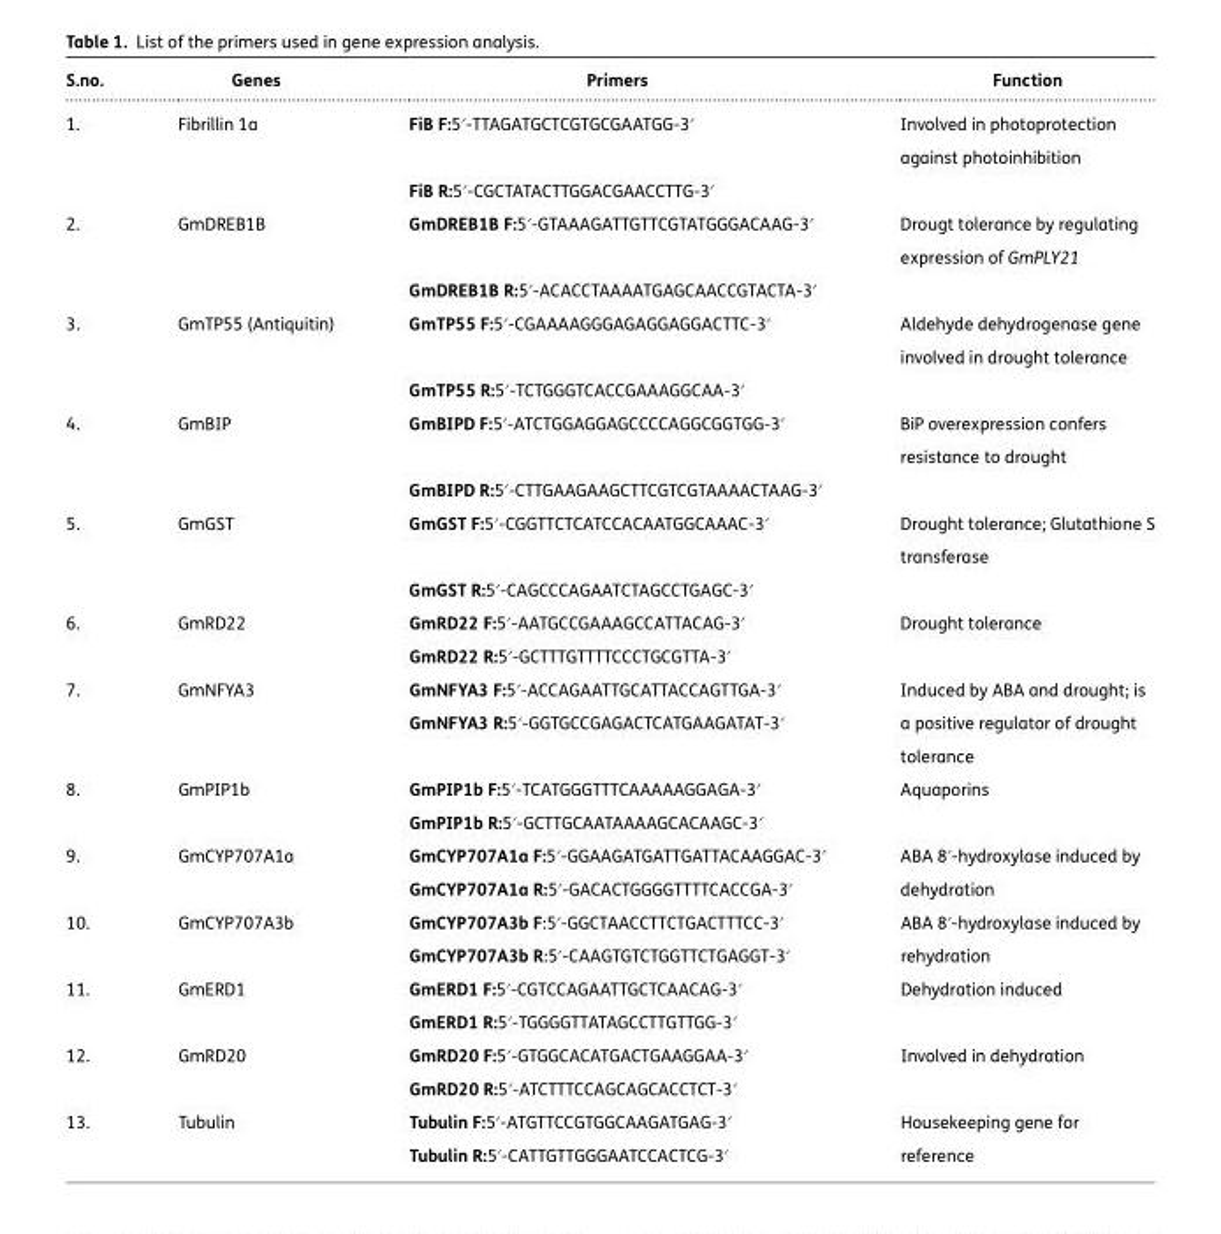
<table><thead><tr><td>S.no.</td><td>Genes</td><td>Primers</td><td>Function</td></tr></thead><tbody><tr><td rowspan="2">1.</td><td>Fibrillin 1a</td><td>FiB F:5′-TTAGATGCTCGTGCGAATGG-3′</td><td>Involved in photoprotection against photoinhibition</td></tr><tr><td></td><td>FiB R:5′-CGCTATACTTGGACGAACCTTG-3′</td><td></td></tr><tr><td rowspan="2">2.</td><td>GmDREB1B</td><td>GmDREB1B F:5′-GTAAAGATTGTTCGTATGGGACAAG-3′</td><td>Drougt tolerance by regulating expression of GmPLY21</td></tr><tr><td></td><td>GmDREB1B R:5′-ACACCTAAAATGAGCAACCGTACTA-3′</td><td></td></tr><tr><td rowspan="2">3.</td><td>GmTP55 (Antiquitin)</td><td>GmTP55 F:5′-CGAAAAGGGAGAGGAGGACTTC-3′</td><td>Aldehyde dehydrogenase gene involved in drought tolerance</td></tr><tr><td></td><td>GmTP55 R:5′-TCTGGGTCACCGAAAGGCAA-3′</td><td></td></tr><tr><td rowspan="2">4.</td><td>GmBIP</td><td>GmBIPD F:5′-ATCTGGAGGAGCCCCAGGCGGTGG-3′</td><td>BiP overexpression confers resistance to drought</td></tr><tr><td></td><td>GmBIPD R:5′-CTTGAAGAAGCTTCGTCGTAAAACTAAG-3′</td><td></td></tr><tr><td rowspan="2">5.</td><td>GmGST</td><td>GmGST F:5′-CGGTTCTCATCCACAATGGCAAAC-3′</td><td>Drought tolerance; Glutathione S transferase</td></tr><tr><td></td><td>GmGST R:5′-CAGCCCAGAATCTAGCCTGAGC-3′</td><td></td></tr><tr><td rowspan="2">6.</td><td>GmRD22</td><td>GmRD22 F:5′-AATGCCGAAAGCCATTACAG-3′</td><td>Drought tolerance</td></tr><tr><td></td><td>GmRD22 R:5′-GCTTTGTTTTCCCTGCGTTA-3′</td><td></td></tr><tr><td rowspan="2">7.</td><td rowspan="2">GmNFYA3</td><td>GmNFYA3 F:5′-ACCAGAATTGCATTACCAGTTGA-3′</td><td rowspan="2">Induced by ABA and drought; is a positive regulator of drought tolerance</td></tr><tr><td>GmNFYA3 R:5′-GGTGCCGAGACTCATGAAGATAT-3′</td></tr><tr><td rowspan="2">8.</td><td rowspan="2">GmPIP1b</td><td>GmPIP1b F:5′-TCATGGGTTTCAAAAAGGAGA-3′</td><td rowspan="2">Aquaporins</td></tr><tr><td>GmPIP1b R:5′-GCTTGCAATAAAAGCACAAGC-3′</td></tr><tr><td rowspan="2">9.</td><td rowspan="2">GmCYP707A1a</td><td>GmCYP707A1a F:5′-GGAAGATGATTGATTACAAGGAC-3′</td><td rowspan="2">ABA 8′-hydroxylase induced by dehydration</td></tr><tr><td>GmCYP707A1a R:5′-GACACTGGGGTTTTCACCGA-3′</td></tr><tr><td rowspan="2">10.</td><td rowspan="2">GmCYP707A3b</td><td>GmCYP707A3b F:5′-GGCTAACCTTCTGACTTTCC-3′</td><td rowspan="2">ABA 8′-hydroxylase induced by rehydration</td></tr><tr><td>GmCYP707A3b R:5′-CAAGTGTCTGGTTCTGAGGT-3′</td></tr><tr><td rowspan="2">11.</td><td rowspan="2">GmERD1</td><td>GmERD1 F:5′-CGTCCAGAATTGCTCAACAG-3′</td><td rowspan="2">Dehydration induced</td></tr><tr><td>GmERD1 R:5′-TGGGGTTATAGCCTTGTTGG-3′</td></tr><tr><td rowspan="2">12.</td><td rowspan="2">GmRD20</td><td>GmRD20 F:5′-GTGGCACATGACTGAAGGAA-3′</td><td rowspan="2">Involved in dehydration</td></tr><tr><td>GmRD20 R:5′-ATCTTTCCAGCAGCACCTCT-3′</td></tr><tr><td rowspan="2">13.</td><td rowspan="2">Tubulin</td><td>Tubulin F:5′-ATGTTCCGTGGCAAGATGAG-3′</td><td rowspan="2">Housekeeping gene for reference</td></tr><tr><td>Tubulin R:5′-CATTGTTGGGAATCCACTCG-3′</td></tr></tbody></table>